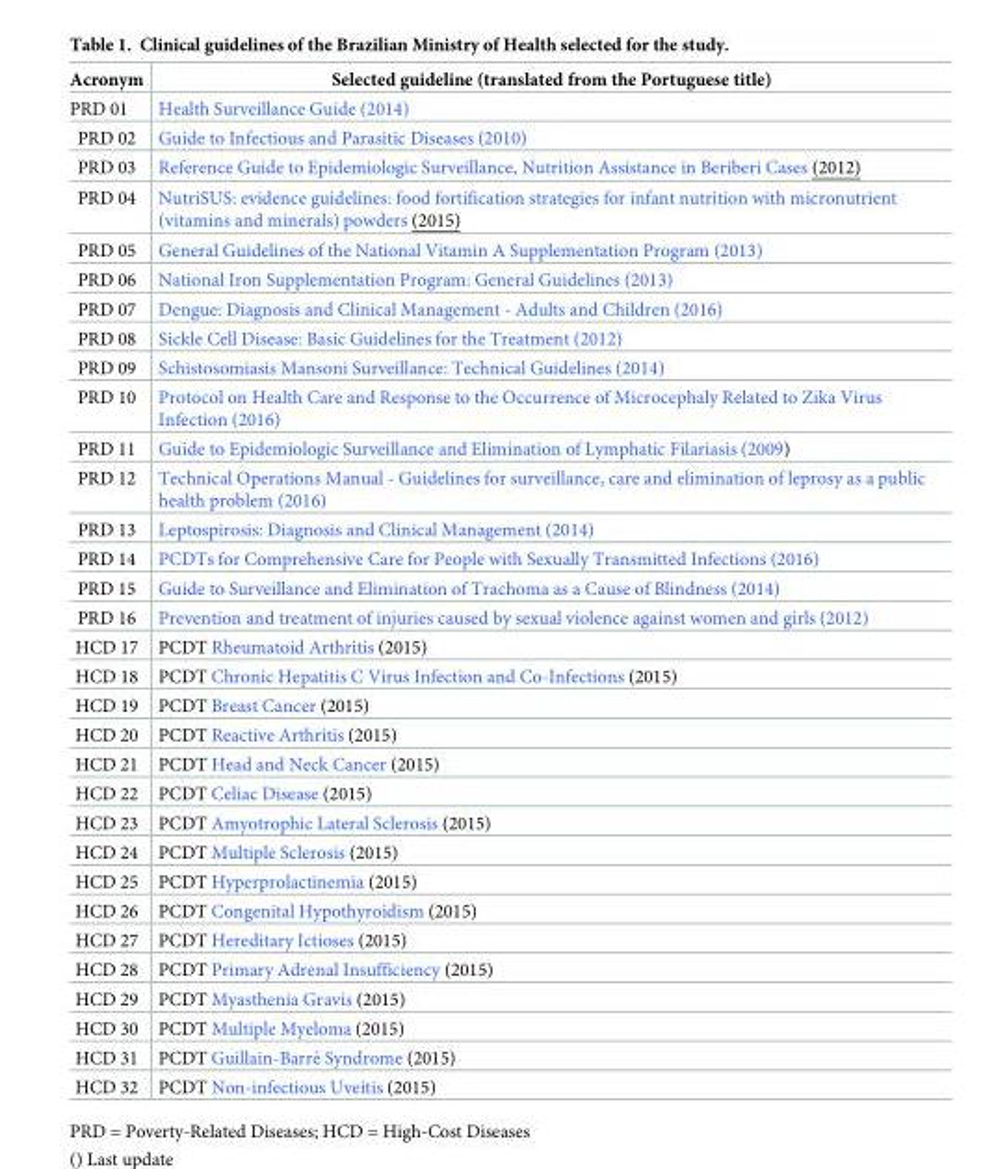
<table><thead><tr><td>Acronym</td><td>Selected guideline (translated from the Portuguese title)</td></tr></thead><tbody><tr><td>PRD 01</td><td>Health Surveillance Guide (2014)</td></tr><tr><td>PRD 02</td><td>Guide to Infectious and Parasitic Diseases (2010)</td></tr><tr><td>PRD 03</td><td>Reference Guide to Epidemiologic Surveillance, Nutrition Assistance in Beriberi Cases (2012)</td></tr><tr><td>PRD 04</td><td>NutriSUS: evidence guidelines: food fortification strategies for infant nutrition with micronutrient (vitamins and minerals) powders (2015)</td></tr><tr><td>PRD 05</td><td>General Guidelines of the National Vitamin A Supplementation Program (2013)</td></tr><tr><td>PRD 06</td><td>National Iron Supplementation Program: General Guidelines (2013)</td></tr><tr><td>PRD 07</td><td>Dengue: Diagnosis and Clinical Management - Adults and Children (2016)</td></tr><tr><td>PRD 08</td><td>Sickle Cell Disease: Basic Guidelines for the Treatment (2012)</td></tr><tr><td>PRD 09</td><td>Schistosomiasis Mansoni Surveillance: Technical Guidelines (2014)</td></tr><tr><td>PRD 10</td><td>Protocol on Health Care and Response to the Occurrence of Microcephaly Related to Zika Virus Infection (2016)</td></tr><tr><td>PRD 11</td><td>Guide to Epidemiologic Surveillance and Elimination of Lymphatic Filariasis (2009)</td></tr><tr><td>PRD 12</td><td>Technical Operations Manual - Guidelines for surveillance, care and elimination of leprosy as a public health problem (2016)</td></tr><tr><td>PRD 13</td><td>Leptospirosis: Diagnosis and Clinical Management (2014)</td></tr><tr><td>PRD 14</td><td>PCDTs for Comprehensive Care for People with Sexually Transmitted Infections (2016)</td></tr><tr><td>PRD 15</td><td>Guide to Surveillance and Elimination of Trachoma as a Cause of Blindness (2014)</td></tr><tr><td>PRD 16</td><td>Prevention and treatment of injuries caused by sexual violence against women and girls (2012)</td></tr><tr><td>HCD 17</td><td>PCDT Rheumatoid Arthritis (2015)</td></tr><tr><td>HCD 18</td><td>PCDT Chronic Hepatitis C Virus Infection and Co-Infections (2015)</td></tr><tr><td>HCD 19</td><td>PCDT Breast Cancer (2015)</td></tr><tr><td>HCD 20</td><td>PCDT Reactive Arthritis (2015)</td></tr><tr><td>HCD 21</td><td>PCDT Head and Neck Cancer (2015)</td></tr><tr><td>HCD 22</td><td>PCDT Celiac Disease (2015)</td></tr><tr><td>HCD 23</td><td>PCDT Amyotrophic Lateral Sclerosis (2015)</td></tr><tr><td>HCD 24</td><td>PCDT Multiple Sclerosis (2015)</td></tr><tr><td>HCD 25</td><td>PCDT Hyperprolactinemia (2015)</td></tr><tr><td>HCD 26</td><td>PCDT Congenital Hypothyroidism (2015)</td></tr><tr><td>HCD 27</td><td>PCDT Hereditary Ictioses (2015)</td></tr><tr><td>HCD 28</td><td>PCDT Primary Adrenal Insufficiency (2015)</td></tr><tr><td>HCD 29</td><td>PCDT Myasthenia Gravis (2015)</td></tr><tr><td>HCD 30</td><td>PCDT Multiple Myeloma (2015)</td></tr><tr><td>HCD 31</td><td>PCDT Guillain-Barre´ Syndrome (2015)</td></tr><tr><td>HCD 32</td><td>PCDT Non-infectious Uveitis (2015)</td></tr></tbody></table>